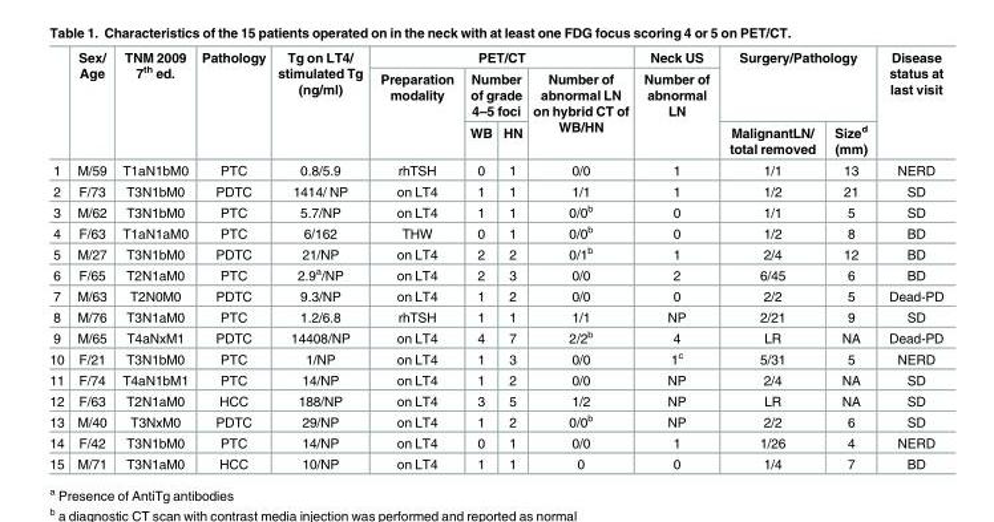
<table><thead><tr><td rowspan="3"></td><td rowspan="3">Sex/ Age</td><td rowspan="3">TNM 2009 7<sup>th</sup> ed.</td><td rowspan="3">Pathology</td><td rowspan="3">Tg on LT4/ stimulated Tg (ng/ml)</td><td colspan="4">PET/CT</td><td rowspan="3">Neck US Number of abnormal LN</td><td rowspan="2" colspan="2">Surgery/Pathology</td><td rowspan="3">Disease status at last visit</td></tr><tr><td rowspan="2">Preparation modality</td><td colspan="2">Number of grade 4–5 foci</td><td rowspan="2">Number of abnormal LN on hybrid CT of WB/HN</td></tr><tr><td>WB</td><td>HN</td><td>MalignantLN/ total removed</td><td>Size<sup>d</sup> (mm)</td></tr></thead><tbody><tr><td>1</td><td>M/59</td><td>T1aN1bM0</td><td>PTC</td><td>0.8/5.9</td><td>rhTSH</td><td>0</td><td>1</td><td>0/0</td><td>1</td><td>1/1</td><td>13</td><td>NERD</td></tr><tr><td>2</td><td>F/73</td><td>T3N1bM0</td><td>PDTC</td><td>1414/ NP</td><td>on LT4</td><td>1</td><td>1</td><td>1/1</td><td>1</td><td>1/2</td><td>21</td><td>SD</td></tr><tr><td>3</td><td>M/62</td><td>T3N1bM0</td><td>PTC</td><td>5.7/NP</td><td>on LT4</td><td>1</td><td>1</td><td>0/0<sup>b</sup></td><td>0</td><td>1/1</td><td>5</td><td>SD</td></tr><tr><td>4</td><td>F/63</td><td>T1aN1aM0</td><td>PTC</td><td>6/162</td><td>THW</td><td>0</td><td>1</td><td>0/0<sup>b</sup></td><td>0</td><td>1/2</td><td>8</td><td>BD</td></tr><tr><td>5</td><td>M/27</td><td>T3N1bM0</td><td>PDTC</td><td>21/NP</td><td>on LT4</td><td>2</td><td>2</td><td>0/1<sup>b</sup></td><td>1</td><td>2/4</td><td>12</td><td>BD</td></tr><tr><td>6</td><td>F/65</td><td>T2N1aM0</td><td>PTC</td><td>2.9<sup>a</sup>/NP</td><td>on LT4</td><td>2</td><td>3</td><td>0/0</td><td>2</td><td>6/45</td><td>6</td><td>BD</td></tr><tr><td>7</td><td>M/63</td><td>T2N0M0</td><td>PDTC</td><td>9.3/NP</td><td>on LT4</td><td>1</td><td>2</td><td>0/0</td><td>0</td><td>2/2</td><td>5</td><td>Dead-PD</td></tr><tr><td>8</td><td>M/76</td><td>T3N1aM0</td><td>PTC</td><td>1.2/6.8</td><td>rhTSH</td><td>1</td><td>1</td><td>1/1</td><td>NP</td><td>2/21</td><td>9</td><td>SD</td></tr><tr><td>9</td><td>M/65</td><td>T4aNxM1</td><td>PDTC</td><td>14408/NP</td><td>on LT4</td><td>4</td><td>7</td><td>2/2<sup>b</sup></td><td>4</td><td>LR</td><td>NA</td><td>Dead-PD</td></tr><tr><td>10</td><td>F/21</td><td>T3N1bM0</td><td>PTC</td><td>1/NP</td><td>on LT4</td><td>1</td><td>3</td><td>0/0</td><td>1<sup>c</sup></td><td>5/31</td><td>5</td><td>NERD</td></tr><tr><td>11</td><td>F/74</td><td>T4aN1bM1</td><td>PTC</td><td>14/NP</td><td>on LT4</td><td>1</td><td>2</td><td>0/0</td><td>NP</td><td>2/4</td><td>NA</td><td>SD</td></tr><tr><td>12</td><td>F/63</td><td>T2N1aM0</td><td>HCC</td><td>188/NP</td><td>on LT4</td><td>3</td><td>5</td><td>1/2</td><td>NP</td><td>LR</td><td>NA</td><td>SD</td></tr><tr><td>13</td><td>M/40</td><td>T3NxM0</td><td>PDTC</td><td>29/NP</td><td>on LT4</td><td>1</td><td>2</td><td>0/0<sup>b</sup></td><td>NP</td><td>2/2</td><td>6</td><td>SD</td></tr><tr><td>14</td><td>F/42</td><td>T3N1bM0</td><td>PTC</td><td>14/NP</td><td>on LT4</td><td>0</td><td>1</td><td>0/0</td><td>1</td><td>1/26</td><td>4</td><td>NERD</td></tr><tr><td>15</td><td>M/71</td><td>T3N1aM0</td><td>HCC</td><td>10/NP</td><td>on LT4</td><td>1</td><td>1</td><td>0</td><td>0</td><td>1/4</td><td>7</td><td>BD</td></tr></tbody></table>